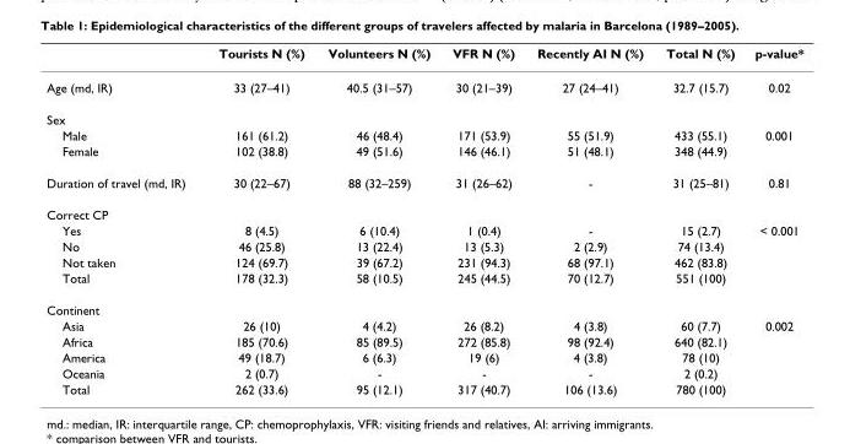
<table><thead><tr><td></td><td>Tourists N (%)</td><td>Volunteers N (%)</td><td>VFR N (%)</td><td>Recently AI N (%)</td><td>Total N (%)</td><td>p-value*</td></tr></thead><tbody><tr><td>Age (md, IR)</td><td>33 (27–41)</td><td>40.5 (31–57)</td><td>30 (21–39)</td><td>27 (24–41)</td><td>32.7 (15.7)</td><td>0.02</td></tr><tr><td colspan="7">Sex</td></tr><tr><td>Male</td><td>161 (61.2)</td><td>46 (48.4)</td><td>171 (53.9)</td><td>55 (51.9)</td><td>433 (55.1)</td><td>0.001</td></tr><tr><td>Female</td><td>102 (38.8)</td><td>49 (51.6)</td><td>146 (46.1)</td><td>51 (48.1)</td><td>348 (44.9)</td><td></td></tr><tr><td>Duration of travel (md, IR)</td><td>30 (22–67)</td><td>88 (32–259)</td><td>31 (26–62)</td><td>-</td><td>31 (25–81)</td><td>0.81</td></tr><tr><td colspan="7">Correct CP</td></tr><tr><td>Yes</td><td>8 (4.5)</td><td>6 (10.4)</td><td>1 (0.4)</td><td>-</td><td>15 (2.7)</td><td>&lt; 0.001</td></tr><tr><td>No</td><td>46 (25.8)</td><td>13 (22.4)</td><td>13 (5.3)</td><td>2 (2.9)</td><td>74 (13.4)</td><td></td></tr><tr><td>Not taken</td><td>124 (69.7)</td><td>39 (67.2)</td><td>231 (94.3)</td><td>68 (97.1)</td><td>462 (83.8)</td><td></td></tr><tr><td>Total</td><td>178 (32.3)</td><td>58 (10.5)</td><td>245 (44.5)</td><td>70 (12.7)</td><td>551 (100)</td><td></td></tr><tr><td colspan="7">Continent</td></tr><tr><td>Asia</td><td>26 (10)</td><td>4 (4.2)</td><td>26 (8.2)</td><td>4 (3.8)</td><td>60 (7.7)</td><td>0.002</td></tr><tr><td>Africa</td><td>185 (70.6)</td><td>85 (89.5)</td><td>272 (85.8)</td><td>98 (92.4)</td><td>640 (82.1)</td><td></td></tr><tr><td>America</td><td>49 (18.7)</td><td>6 (6.3)</td><td>19 (6)</td><td>4 (3.8)</td><td>78 (10)</td><td></td></tr><tr><td>Oceania</td><td>2 (0.7)</td><td>-</td><td>-</td><td>-</td><td>2 (0.2)</td><td></td></tr><tr><td>Total</td><td>262 (33.6)</td><td>95 (12.1)</td><td>317 (40.7)</td><td>106 (13.6)</td><td>780 (100)</td><td></td></tr></tbody></table>